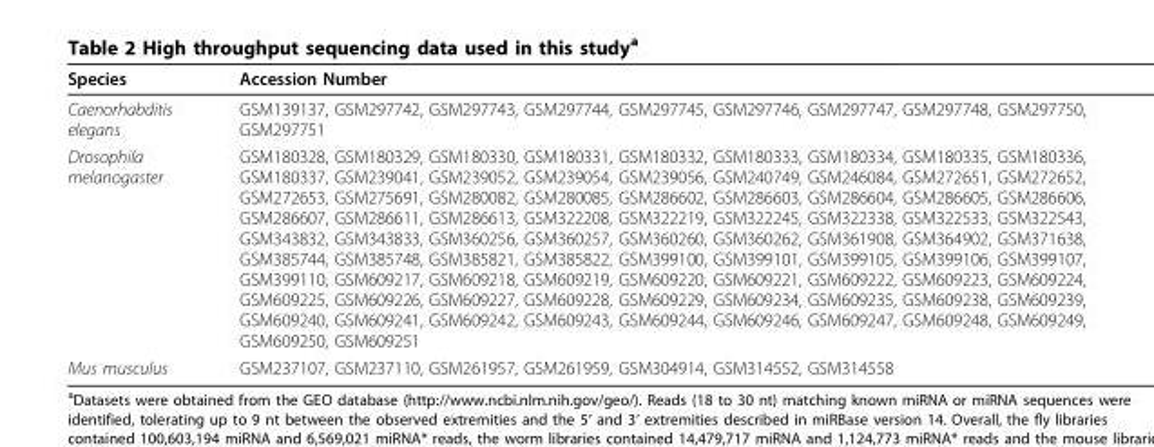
<table><thead><tr><td>Species</td><td>Accession Number</td></tr></thead><tbody><tr><td>Caenorhabditis elegans</td><td>GSM139137, GSM297742, GSM297743, GSM297744, GSM297745, GSM297746, GSM297747, GSM297748, GSM297750, GSM297751</td></tr><tr><td>Drosophila melanogaster</td><td>GSM180328, GSM180329, GSM180330, GSM180331, GSM180332, GSM180333, GSM180334, GSM180335, GSM180336, GSM180337, GSM239041, GSM239052, GSM239054, GSM239056, GSM240749, GSM246084, GSM272651, GSM272652, GSM272653, GSM275691, GSM280082, GSM280085, GSM286602, GSM286603, GSM286604, GSM286605, GSM286606, GSM286607, GSM286611, GSM286613, GSM322208, GSM322219, GSM322245, GSM322338, GSM322533, GSM322543, GSM343832, GSM343833, GSM360256, GSM360257, GSM360260, GSM360262, GSM361908, GSM364902, GSM371638, GSM385744, GSM385748, GSM385821, GSM385822, GSM399100, GSM399101, GSM399105, GSM399106, GSM399107, GSM399110, GSM609217, GSM609218, GSM609219, GSM609220, GSM609221, GSM609222, GSM609223, GSM609224, GSM609225, GSM609226, GSM609227, GSM609228, GSM609229, GSM609234, GSM609235, GSM609238, GSM609239, GSM609240, GSM609241, GSM609242, GSM609243, GSM609244, GSM609246, GSM609247, GSM609248, GSM609249, GSM609250, GSM609251</td></tr><tr><td>Mus musculus</td><td>GSM237107, GSM237110, GSM261957, GSM261959, GSM304914, GSM314552, GSM314558</td></tr></tbody></table>